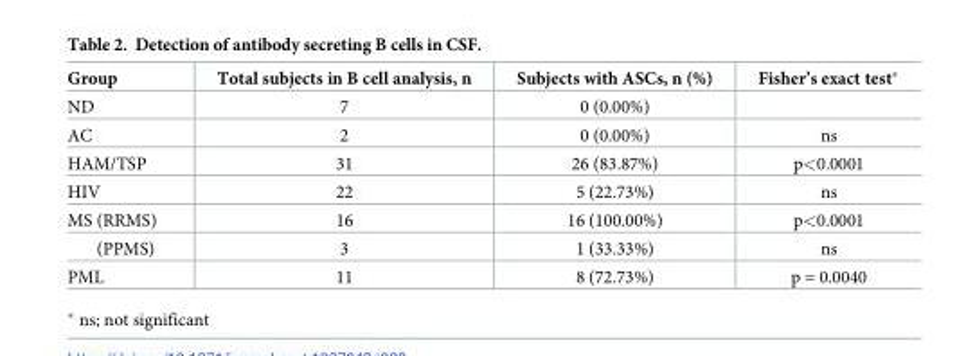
<table><thead><tr><td>Group</td><td>Total subjects in B cell analysis, n</td><td>Subjects with ASCs, n (%)</td><td>Fisher’s exact test*</td></tr></thead><tbody><tr><td>ND</td><td>7</td><td>0 (0.00%)</td><td></td></tr><tr><td>AC</td><td>2</td><td>0 (0.00%)</td><td>ns</td></tr><tr><td>HAM/TSP</td><td>31</td><td>26 (83.87%)</td><td>p&lt;0.0001</td></tr><tr><td>HIV</td><td>22</td><td>5 (22.73%)</td><td>ns</td></tr><tr><td>MS (RRMS)</td><td>16</td><td>16 (100.00%)</td><td>p&lt;0.0001</td></tr><tr><td>(PPMS)</td><td>3</td><td>1 (33.33%)</td><td>ns</td></tr><tr><td>PML</td><td>11</td><td>8 (72.73%)</td><td>p = 0.0040</td></tr></tbody></table>